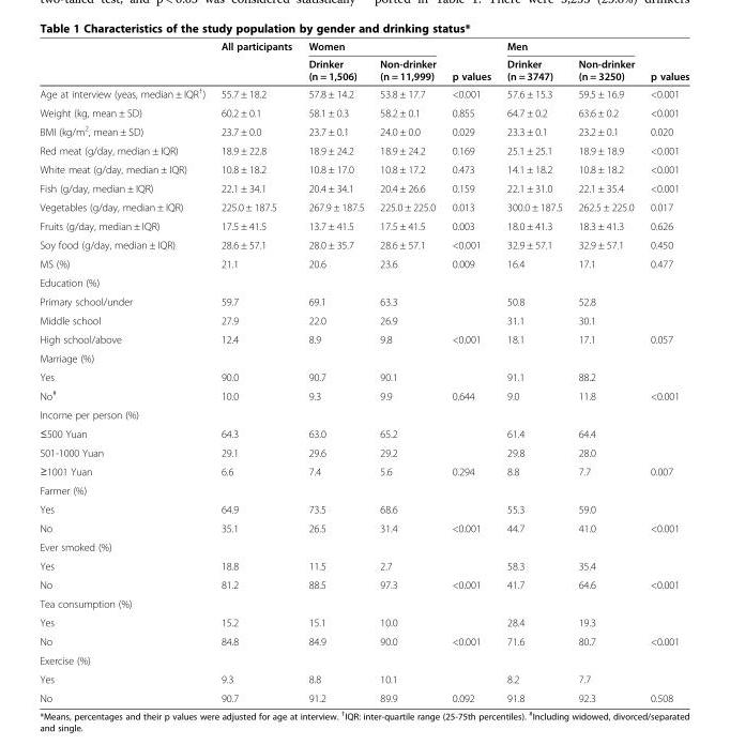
<table><thead><tr><td rowspan="2"></td><td rowspan="2">All participants</td><td colspan="2">Women</td><td rowspan="2">p values</td><td colspan="2">Men</td><td rowspan="2">p values</td></tr><tr><td>Drinker (n = 1,506)</td><td>Non-drinker (n = 11,999)</td><td>Drinker (n = 3747)</td><td>Non-drinker (n = 3250)</td></tr></thead><tbody><tr><td>Age at interview (yeas, median ± IQR<sup>†</sup>)</td><td>55.7 ± 18.2</td><td>57.8 ± 14.2</td><td>53.8 ± 17.7</td><td>&lt;0.001</td><td>57.6 ± 15.3</td><td>59.5 ± 16.9</td><td>&lt;0.001</td></tr><tr><td>Weight (kg, mean ± SD)</td><td>60.2 ± 0.1</td><td>58.1 ± 0.3</td><td>58.2 ± 0.1</td><td>0.855</td><td>64.7 ± 0.2</td><td>63.6 ± 0.2</td><td>&lt;0.001</td></tr><tr><td>BMI (kg/m<sup>2</sup>, mean ± SD)</td><td>23.7 ± 0.0</td><td>23.7 ± 0.1</td><td>24.0 ± 0.0</td><td>0.029</td><td>23.3 ± 0.1</td><td>23.2 ± 0.1</td><td>0.020</td></tr><tr><td>Red meat (g/day, median ± IQR)</td><td>18.9 ± 22.8</td><td>18.9 ± 24.2</td><td>18.9 ± 24.2</td><td>0.169</td><td>25.1 ± 25.1</td><td>18.9 ± 18.9</td><td>&lt;0.001</td></tr><tr><td>White meat (g/day, median ± IQR)</td><td>10.8 ± 18.2</td><td>10.8 ± 17.0</td><td>10.8 ± 17.2</td><td>0.473</td><td>14.1 ± 18.2</td><td>10.8 ± 18.2</td><td>&lt;0.001</td></tr><tr><td>Fish (g/day, median ± IQR)</td><td>22.1 ± 34.1</td><td>20.4 ± 34.1</td><td>20.4 ± 26.6</td><td>0.159</td><td>22.1 ± 31.0</td><td>22.1 ± 35.4</td><td>&lt;0.001</td></tr><tr><td>Vegetables (g/day, median ± IQR)</td><td>225.0 ± 187.5</td><td>267.9 ± 187.5</td><td>225.0 ± 225.0</td><td>0.013</td><td>300.0 ± 187.5</td><td>262.5 ± 225.0</td><td>0.017</td></tr><tr><td>Fruits (g/day, median ± IQR)</td><td>17.5 ± 41.5</td><td>13.7 ± 41.5</td><td>17.5 ± 41.5</td><td>0.003</td><td>18.0 ± 41.3</td><td>18.3 ± 41.3</td><td>0.626</td></tr><tr><td>Soy food (g/day, median ± IQR)</td><td>28.6 ± 57.1</td><td>28.0 ± 35.7</td><td>28.6 ± 57.1</td><td>&lt;0.001</td><td>32.9 ± 57.1</td><td>32.9 ± 57.1</td><td>0.450</td></tr><tr><td>MS (%)</td><td>21.1</td><td>20.6</td><td>23.6</td><td>0.009</td><td>16.4</td><td>17.1</td><td>0.477</td></tr><tr><td colspan="8">Education (%)</td></tr><tr><td>Primary school/under</td><td>59.7</td><td>69.1</td><td>63.3</td><td></td><td>50.8</td><td>52.8</td><td></td></tr><tr><td>Middle school</td><td>27.9</td><td>22.0</td><td>26.9</td><td></td><td>31.1</td><td>30.1</td><td></td></tr><tr><td>High school/above</td><td>12.4</td><td>8.9</td><td>9.8</td><td>&lt;0.001</td><td>18.1</td><td>17.1</td><td>0.057</td></tr><tr><td colspan="8">Marriage (%)</td></tr><tr><td>Yes</td><td>90.0</td><td>90.7</td><td>90.1</td><td></td><td>91.1</td><td>88.2</td><td></td></tr><tr><td>No<sup>#</sup></td><td>10.0</td><td>9.3</td><td>9.9</td><td>0.644</td><td>9.0</td><td>11.8</td><td>&lt;0.001</td></tr><tr><td colspan="8">Income per person (%)</td></tr><tr><td>≤500 Yuan</td><td>64.3</td><td>63.0</td><td>65.2</td><td></td><td>61.4</td><td>64.4</td><td></td></tr><tr><td>501-1000 Yuan</td><td>29.1</td><td>29.6</td><td>29.2</td><td></td><td>29.8</td><td>28.0</td><td></td></tr><tr><td>≥1001 Yuan</td><td>6.6</td><td>7.4</td><td>5.6</td><td>0.294</td><td>8.8</td><td>7.7</td><td>0.007</td></tr><tr><td colspan="8">Farmer (%)</td></tr><tr><td>Yes</td><td>64.9</td><td>73.5</td><td>68.6</td><td></td><td>55.3</td><td>59.0</td><td></td></tr><tr><td>No</td><td>35.1</td><td>26.5</td><td>31.4</td><td>&lt;0.001</td><td>44.7</td><td>41.0</td><td>&lt;0.001</td></tr><tr><td colspan="8">Ever smoked (%)</td></tr><tr><td>Yes</td><td>18.8</td><td>11.5</td><td>2.7</td><td></td><td>58.3</td><td>35.4</td><td></td></tr><tr><td>No</td><td>81.2</td><td>88.5</td><td>97.3</td><td>&lt;0.001</td><td>41.7</td><td>64.6</td><td>&lt;0.001</td></tr><tr><td colspan="8">Tea consumption (%)</td></tr><tr><td>Yes</td><td>15.2</td><td>15.1</td><td>10.0</td><td></td><td>28.4</td><td>19.3</td><td></td></tr><tr><td>No</td><td>84.8</td><td>84.9</td><td>90.0</td><td>&lt;0.001</td><td>71.6</td><td>80.7</td><td>&lt;0.001</td></tr><tr><td colspan="8">Exercise (%)</td></tr><tr><td>Yes</td><td>9.3</td><td>8.8</td><td>10.1</td><td></td><td>8.2</td><td>7.7</td><td></td></tr><tr><td>No</td><td>90.7</td><td>91.2</td><td>89.9</td><td>0.092</td><td>91.8</td><td>92.3</td><td>0.508</td></tr></tbody></table>